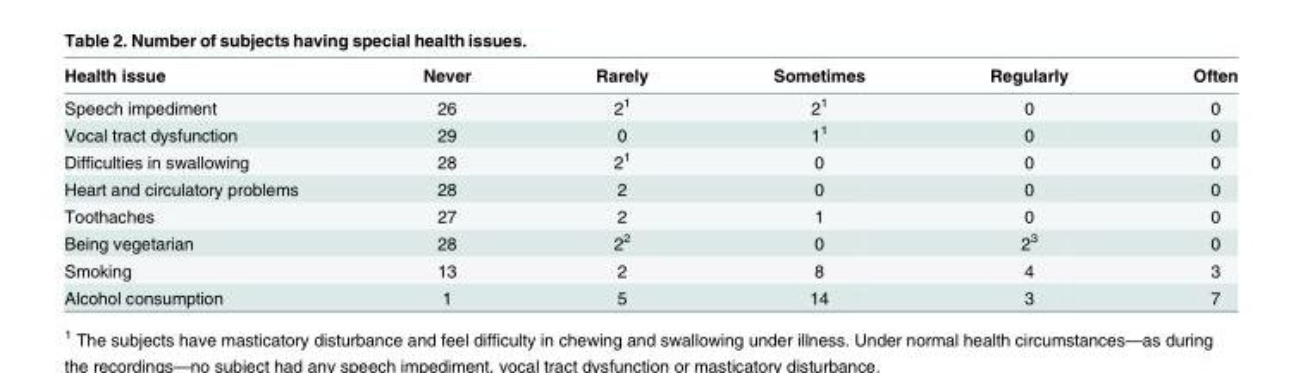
<table><thead><tr><td>Health issue</td><td>Never</td><td>Rarely</td><td>Sometimes</td><td>Regularly</td><td>Often</td></tr></thead><tbody><tr><td>Speech impediment</td><td>26</td><td>2<sup>1</sup></td><td>2<sup>1</sup></td><td>0</td><td>0</td></tr><tr><td>Vocal tract dysfunction</td><td>29</td><td>0</td><td>1<sup>1</sup></td><td>0</td><td>0</td></tr><tr><td>Difficulties in swallowing</td><td>28</td><td>2<sup>1</sup></td><td>0</td><td>0</td><td>0</td></tr><tr><td>Heart and circulatory problems</td><td>28</td><td>2</td><td>0</td><td>0</td><td>0</td></tr><tr><td>Toothaches</td><td>27</td><td>2</td><td>1</td><td>0</td><td>0</td></tr><tr><td>Being vegetarian</td><td>28</td><td>2<sup>2</sup></td><td>0</td><td>2<sup>3</sup></td><td>0</td></tr><tr><td>Smoking</td><td>13</td><td>2</td><td>8</td><td>4</td><td>3</td></tr><tr><td>Alcohol consumption</td><td>1</td><td>5</td><td>14</td><td>3</td><td>7</td></tr></tbody></table>